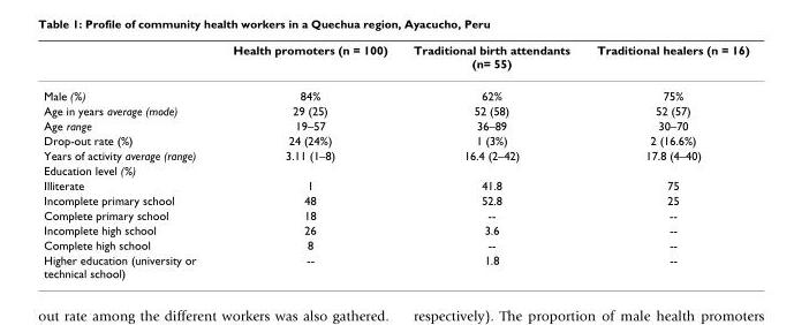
<table><thead><tr><td></td><td>Health promoters (n = 100)</td><td>Traditional birth attendants (n= 55)</td><td>Traditional healers (n = 16)</td></tr></thead><tbody><tr><td>Male (%)</td><td>84%</td><td>62%</td><td>75%</td></tr><tr><td>Age in years average (mode)</td><td>29 (25)</td><td>52 (58)</td><td>52 (57)</td></tr><tr><td>Age range</td><td>19–57</td><td>36–89</td><td>30–70</td></tr><tr><td>Drop-out rate (%)</td><td>24 (24%)</td><td>1 (3%)</td><td>2 (16.6%)</td></tr><tr><td>Years of activity average (range)</td><td>3.11 (1–8)</td><td>16.4 (2–42)</td><td>17.8 (4–40)</td></tr><tr><td colspan="4">Education level (%)</td></tr><tr><td>Illiterate</td><td>1</td><td>41.8</td><td>75</td></tr><tr><td>Incomplete primary school</td><td>48</td><td>52.8</td><td>25</td></tr><tr><td>Complete primary school</td><td>18</td><td>--</td><td>--</td></tr><tr><td>Incomplete high school</td><td>26</td><td>3.6</td><td>--</td></tr><tr><td>Complete high school</td><td>8</td><td>--</td><td>--</td></tr><tr><td>Higher education (university or technical school)</td><td>--</td><td>1.8</td><td>--</td></tr></tbody></table>